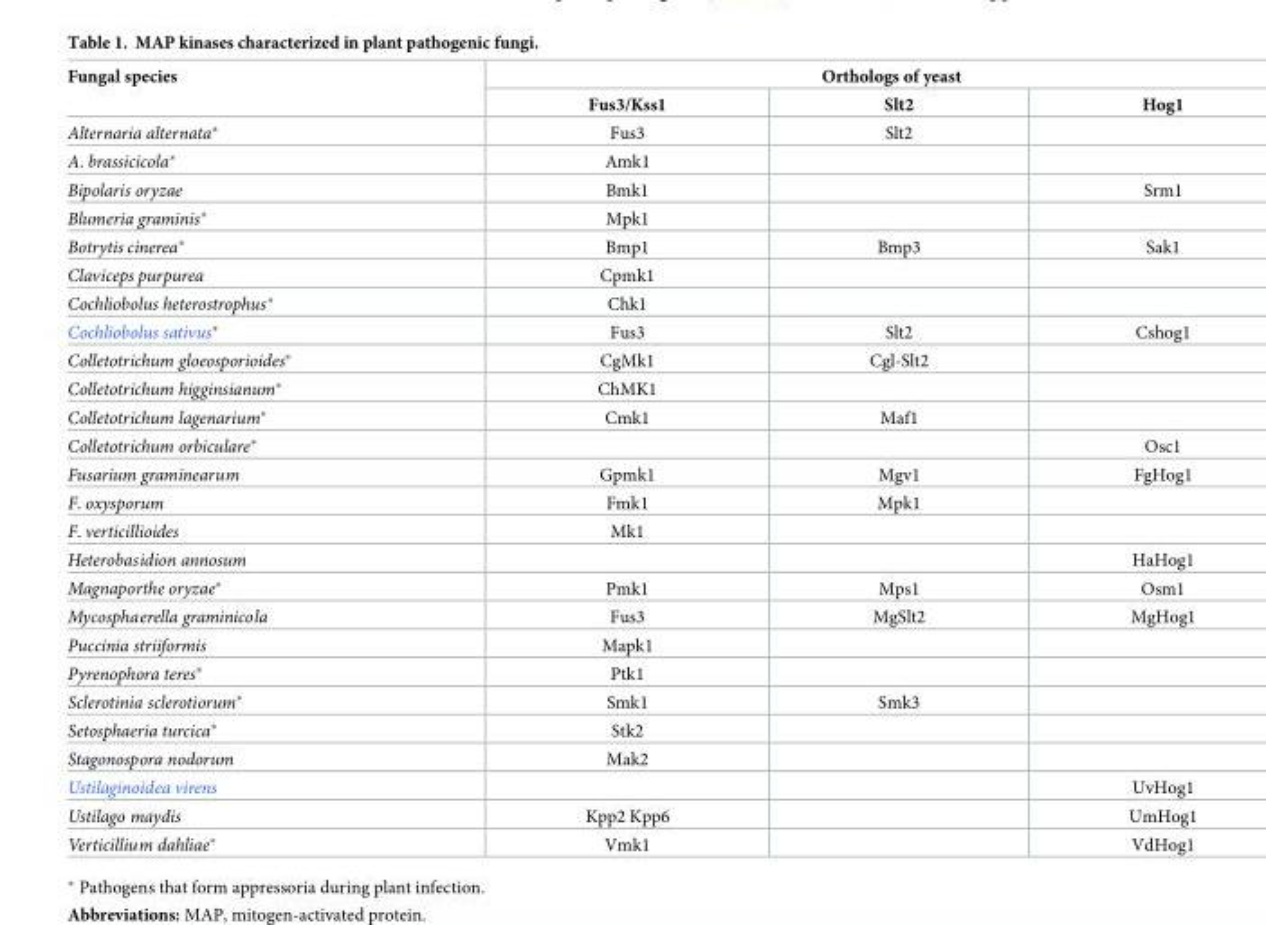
<table><thead><tr><td rowspan="2">Fungal species</td><td colspan="3">Orthologs of yeast</td></tr><tr><td>Fus3/Kss1</td><td>Slt2</td><td>Hog1</td></tr></thead><tbody><tr><td>Alternaria alternata*</td><td>Fus3</td><td>Slt2</td><td></td></tr><tr><td>A. brassicicola*</td><td>Amk1</td><td></td><td></td></tr><tr><td>Bipolaris oryzae</td><td>Bmk1</td><td></td><td>Srm1</td></tr><tr><td>Blumeria graminis*</td><td>Mpk1</td><td></td><td></td></tr><tr><td>Botrytis cinerea*</td><td>Bmp1</td><td>Bmp3</td><td>Sak1</td></tr><tr><td>Claviceps purpurea</td><td>Cpmk1</td><td></td><td></td></tr><tr><td>Cochliobolus heterostrophus*</td><td>Chk1</td><td></td><td></td></tr><tr><td>Cochliobolus sativus*</td><td>Fus3</td><td>Slt2</td><td>Cshog1</td></tr><tr><td>Colletotrichum gloeosporioides*</td><td>CgMk1</td><td>Cgl-Slt2</td><td></td></tr><tr><td>Colletotrichum higginsianum*</td><td>ChMK1</td><td></td><td></td></tr><tr><td>Colletotrichum lagenarium*</td><td>Cmk1</td><td>Maf1</td><td></td></tr><tr><td>Colletotrichum orbiculare*</td><td></td><td></td><td>Osc1</td></tr><tr><td>Fusarium graminearum</td><td>Gpmk1</td><td>Mgv1</td><td>FgHog1</td></tr><tr><td>F. oxysporum</td><td>Fmk1</td><td>Mpk1</td><td></td></tr><tr><td>F. verticillioides</td><td>Mk1</td><td></td><td></td></tr><tr><td>Heterobasidion annosum</td><td></td><td></td><td>HaHog1</td></tr><tr><td>Magnaporthe oryzae*</td><td>Pmk1</td><td>Mps1</td><td>Osm1</td></tr><tr><td>Mycosphaerella graminicola</td><td>Fus3</td><td>MgSlt2</td><td>MgHog1</td></tr><tr><td>Puccinia striiformis</td><td>Mapk1</td><td></td><td></td></tr><tr><td>Pyrenophora teres*</td><td>Ptk1</td><td></td><td></td></tr><tr><td>Sclerotinia sclerotiorum*</td><td>Smk1</td><td>Smk3</td><td></td></tr><tr><td>Setosphaeria turcica*</td><td>Stk2</td><td></td><td></td></tr><tr><td>Stagonospora nodorum</td><td>Mak2</td><td></td><td></td></tr><tr><td>Ustilaginoidea virens</td><td></td><td></td><td>UvHog1</td></tr><tr><td>Ustilago maydis</td><td>Kpp2 Kpp6</td><td></td><td>UmHog1</td></tr><tr><td>Verticillium dahliae*</td><td>Vmk1</td><td></td><td>VdHog1</td></tr></tbody></table>